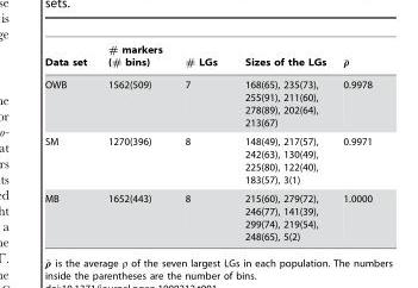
<table><thead><tr><td>Data set</td><td># markers (# bins)</td><td># LGs</td><td>Sizes of the LGs</td><td>�r</td></tr></thead><tbody><tr><td>OWB</td><td>1562(509)</td><td>7</td><td>168(65), 235(73), 255(91), 211(60), 278(89), 202(64), 213(67)</td><td>0.9978</td></tr><tr><td>SM</td><td>1270(396)</td><td>8</td><td>148(49), 217(57), 242(63), 130(49), 225(80), 122(40), 183(57), 3(1)</td><td>0.9971</td></tr><tr><td>MB</td><td>1652(443)</td><td>8</td><td>215(60), 279(72), 246(77), 141(39), 299(74), 219(54), 248(65), 5(2)</td><td>1.0000</td></tr></tbody></table>